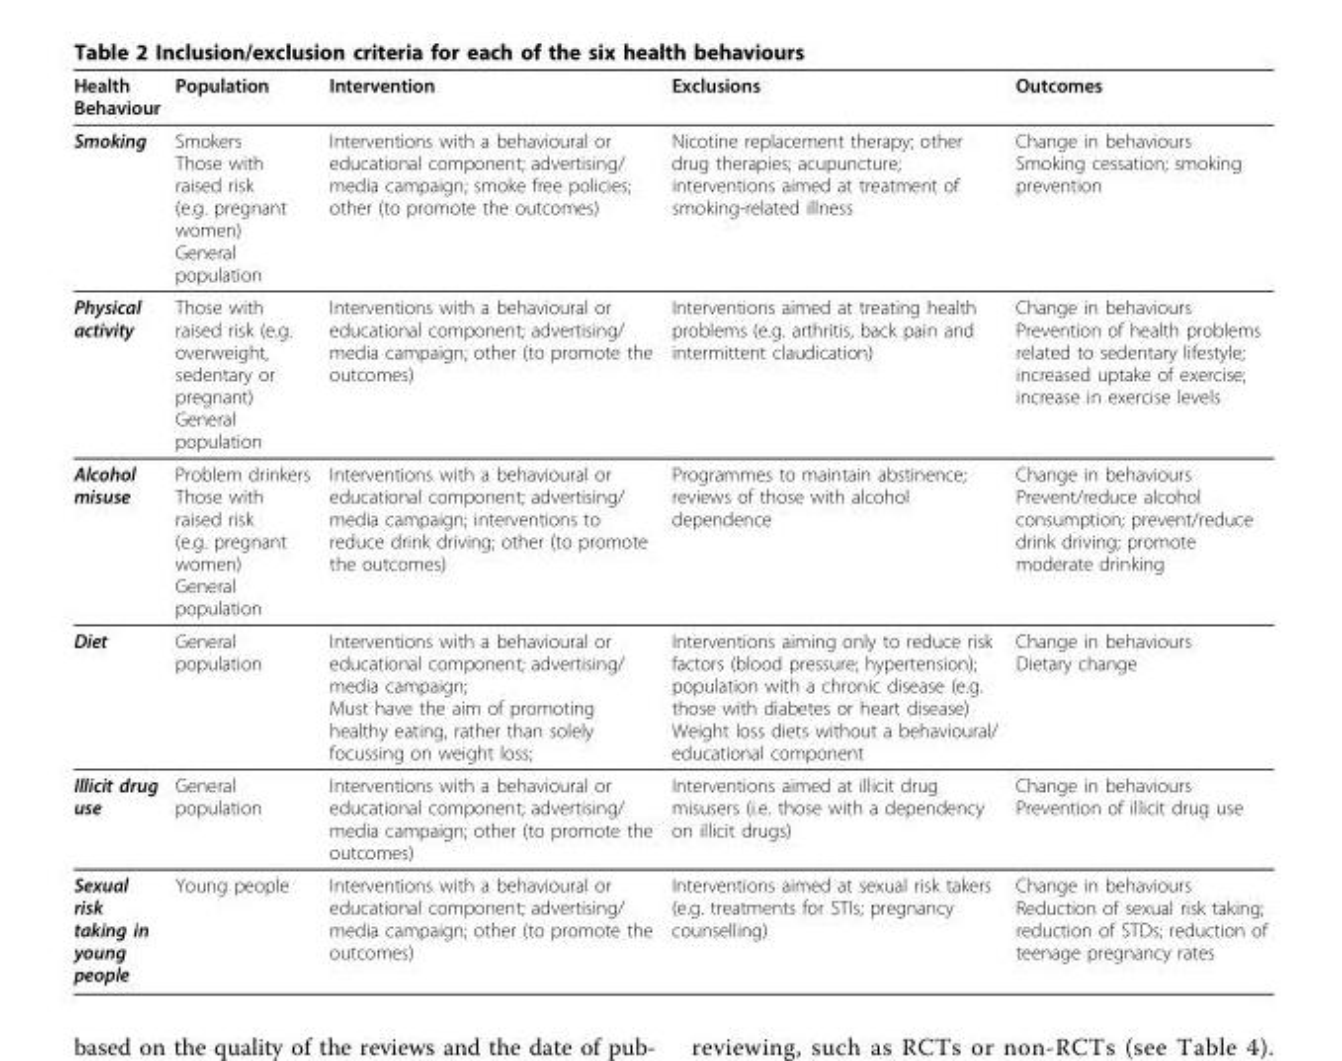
<table><thead><tr><td>Health Behaviour</td><td>Population</td><td>Intervention</td><td>Exclusions</td><td>Outcomes</td></tr></thead><tbody><tr><td>Smoking</td><td>Smokers Those with raised risk (e.g. pregnant women) General population</td><td>Interventions with a behavioural or educational component; advertising/ media campaign; smoke free policies; other (to promote the outcomes)</td><td>Nicotine replacement therapy; other drug therapies; acupuncture; interventions aimed at treatment of smoking-related illness</td><td>Change in behaviours Smoking cessation; smoking prevention</td></tr><tr><td>Physical activity</td><td>Those with raised risk (e.g. overweight, sedentary or pregnant) General population</td><td>Interventions with a behavioural or educational component; advertising/ media campaign; other (to promote the outcomes)</td><td>Interventions aimed at treating health problems (e.g. arthritis, back pain and intermittent claudication)</td><td>Change in behaviours Prevention of health problems related to sedentary lifestyle; increased uptake of exercise; increase in exercise levels</td></tr><tr><td>Alcohol misuse</td><td>Problem drinkers Those with raised risk (e.g. pregnant women) General population</td><td>Interventions with a behavioural or educational component; advertising/ media campaign; interventions to reduce drink driving; other (to promote the outcomes)</td><td>Programmes to maintain abstinence; reviews of those with alcohol dependence</td><td>Change in behaviours Prevent/reduce alcohol consumption; prevent/reduce drink driving; promote moderate drinking</td></tr><tr><td>Diet</td><td>General population</td><td>Interventions with a behavioural or educational component; advertising/ media campaign; Must have the aim of promoting healthy eating, rather than solely focussing on weight loss;</td><td>Interventions aiming only to reduce risk factors (blood pressure; hypertension); population with a chronic disease (e.g. those with diabetes or heart disease) Weight loss diets without a behavioural/ educational component</td><td>Change in behaviours Dietary change</td></tr><tr><td>Illicit drug use</td><td>General population</td><td>Interventions with a behavioural or educational component; advertising/ media campaign; other (to promote the outcomes)</td><td>Interventions aimed at illicit drug misusers (i.e. those with a dependency on illicit drugs)</td><td>Change in behaviours Prevention of illicit drug use</td></tr><tr><td>Sexual risk taking in young people</td><td>Young people</td><td>Interventions with a behavioural or educational component; advertising/ media campaign; other (to promote the outcomes)</td><td>Interventions aimed at sexual risk takers (e.g. treatments for STIs; pregnancy counselling)</td><td>Change in behaviours Reduction of sexual risk taking; reduction of STDs; reduction of teenage pregnancy rates</td></tr></tbody></table>